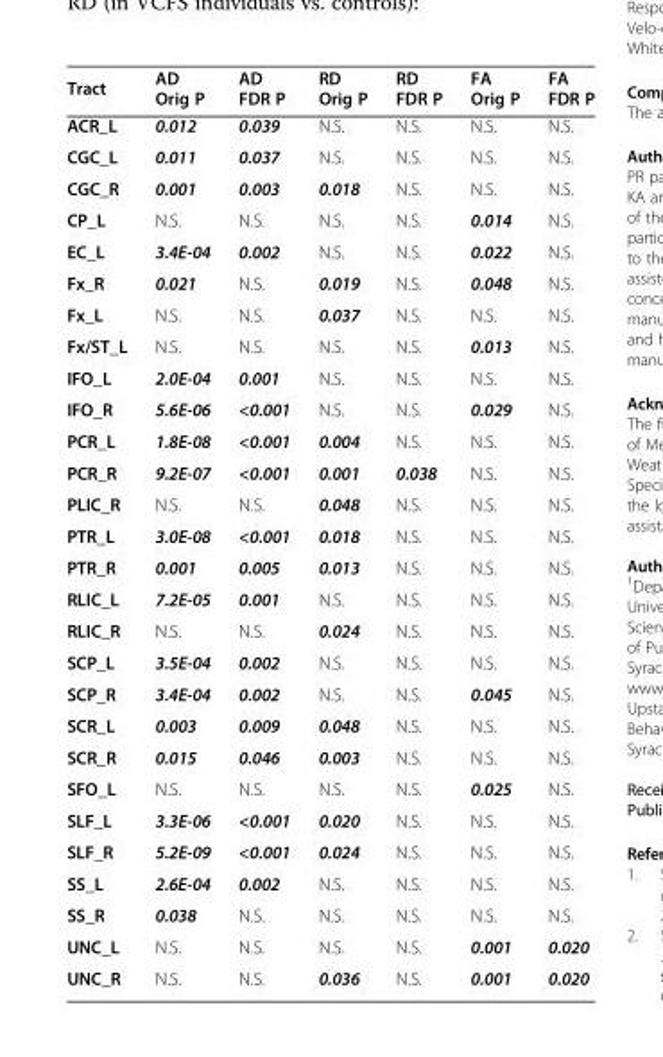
<table><thead><tr><td>Tract</td><td>AD Orig P</td><td>AD FDR P</td><td>RD Orig P</td><td>RD FDR P</td><td>FA Orig P</td><td>FA FDR P</td></tr></thead><tbody><tr><td>ACR_L</td><td>0.012</td><td>0.039</td><td>N.S.</td><td>N.S.</td><td>N.S.</td><td>N.S.</td></tr><tr><td>CGC_L</td><td>0.011</td><td>0.037</td><td>N.S.</td><td>N.S.</td><td>N.S.</td><td>N.S.</td></tr><tr><td>CGC_R</td><td>0.001</td><td>0.003</td><td>0.018</td><td>N.S.</td><td>N.S.</td><td>N.S.</td></tr><tr><td>CP_L</td><td>N.S.</td><td>N.S.</td><td>N.S.</td><td>N.S.</td><td>0.014</td><td>N.S.</td></tr><tr><td>EC_L</td><td>3.4E-04</td><td>0.002</td><td>N.S.</td><td>N.S.</td><td>0.022</td><td>N.S.</td></tr><tr><td>Fx_R</td><td>0.021</td><td>N.S.</td><td>0.019</td><td>N.S.</td><td>0.048</td><td>N.S.</td></tr><tr><td>Fx_L</td><td>N.S.</td><td>N.S.</td><td>0.037</td><td>N.S.</td><td>N.S.</td><td>N.S.</td></tr><tr><td>Fx/ST_L</td><td>N.S.</td><td>N.S.</td><td>N.S.</td><td>N.S.</td><td>0.013</td><td>N.S.</td></tr><tr><td>IFO_L</td><td>2.0E-04</td><td>0.001</td><td>N.S.</td><td>N.S.</td><td>N.S.</td><td>N.S.</td></tr><tr><td>IFO_R</td><td>5.6E-06</td><td>&lt;0.001</td><td>N.S.</td><td>N.S.</td><td>0.029</td><td>N.S.</td></tr><tr><td>PCR_L</td><td>1.8E-08</td><td>&lt;0.001</td><td>0.004</td><td>N.S.</td><td>N.S.</td><td>N.S.</td></tr><tr><td>PCR_R</td><td>9.2E-07</td><td>&lt;0.001</td><td>0.001</td><td>0.038</td><td>N.S.</td><td>N.S.</td></tr><tr><td>PLIC_R</td><td>N.S.</td><td>N.S.</td><td>0.048</td><td>N.S.</td><td>N.S.</td><td>N.S.</td></tr><tr><td>PTR_L</td><td>3.0E-08</td><td>&lt;0.001</td><td>0.018</td><td>N.S.</td><td>N.S.</td><td>N.S.</td></tr><tr><td>PTR_R</td><td>0.001</td><td>0.005</td><td>0.013</td><td>N.S.</td><td>N.S.</td><td>N.S.</td></tr><tr><td>RLIC_L</td><td>7.2E-05</td><td>0.001</td><td>N.S.</td><td>N.S.</td><td>N.S.</td><td>N.S.</td></tr><tr><td>RLIC_R</td><td>N.S.</td><td>N.S.</td><td>0.024</td><td>N.S.</td><td>N.S.</td><td>N.S.</td></tr><tr><td>SCP_L</td><td>3.5E-04</td><td>0.002</td><td>N.S.</td><td>N.S.</td><td>N.S.</td><td>N.S.</td></tr><tr><td>SCP_R</td><td>3.4E-04</td><td>0.002</td><td>N.S.</td><td>N.S.</td><td>0.045</td><td>N.S.</td></tr><tr><td>SCR_L</td><td>0.003</td><td>0.009</td><td>0.048</td><td>N.S.</td><td>N.S.</td><td>N.S.</td></tr><tr><td>SCR_R</td><td>0.015</td><td>0.046</td><td>0.003</td><td>N.S.</td><td>N.S.</td><td>N.S.</td></tr><tr><td>SFO_L</td><td>N.S.</td><td>N.S.</td><td>N.S.</td><td>N.S.</td><td>0.025</td><td>N.S.</td></tr><tr><td>SLF_L</td><td>3.3E-06</td><td>&lt;0.001</td><td>0.020</td><td>N.S.</td><td>N.S.</td><td>N.S.</td></tr><tr><td>SLF_R</td><td>5.2E-09</td><td>&lt;0.001</td><td>0.024</td><td>N.S.</td><td>N.S.</td><td>N.S.</td></tr><tr><td>SS_L</td><td>2.6E-04</td><td>0.002</td><td>N.S.</td><td>N.S.</td><td>N.S.</td><td>N.S.</td></tr><tr><td>SS_R</td><td>0.038</td><td>N.S.</td><td>N.S.</td><td>N.S.</td><td>N.S.</td><td>N.S.</td></tr><tr><td>UNC_L</td><td>N.S.</td><td>N.S.</td><td>N.S.</td><td>N.S.</td><td>0.001</td><td>0.020</td></tr><tr><td>UNC_R</td><td>N.S.</td><td>N.S.</td><td>0.036</td><td>N.S.</td><td>0.001</td><td>0.020</td></tr></tbody></table>